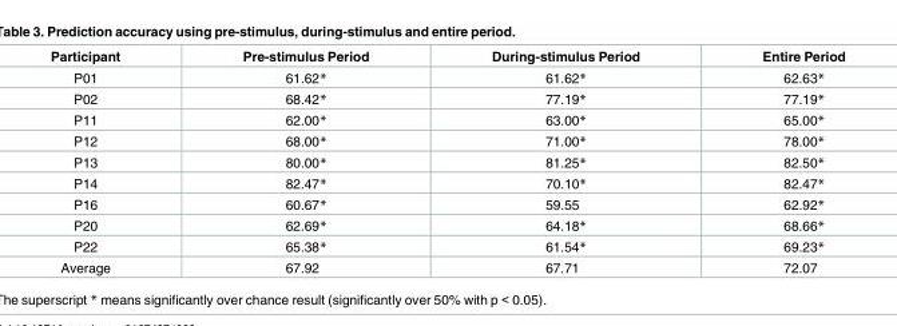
<table><thead><tr><td>Participant</td><td>Pre-stimulus Period</td><td>During-stimulus Period</td><td>Entire Period</td></tr></thead><tbody><tr><td>P01</td><td>61.62*</td><td>61.62*</td><td>62.63*</td></tr><tr><td>P02</td><td>68.42*</td><td>77.19*</td><td>77.19*</td></tr><tr><td>P11</td><td>62.00*</td><td>63.00*</td><td>65.00*</td></tr><tr><td>P12</td><td>68.00*</td><td>71.00*</td><td>78.00*</td></tr><tr><td>P13</td><td>80.00*</td><td>81.25*</td><td>82.50*</td></tr><tr><td>P14</td><td>82.47*</td><td>70.10*</td><td>82.47*</td></tr><tr><td>P16</td><td>60.67*</td><td>59.55</td><td>62.92*</td></tr><tr><td>P20</td><td>62.69*</td><td>64.18*</td><td>68.66*</td></tr><tr><td>P22</td><td>65.38*</td><td>61.54*</td><td>69.23*</td></tr><tr><td>Average</td><td>67.92</td><td>67.71</td><td>72.07</td></tr></tbody></table>